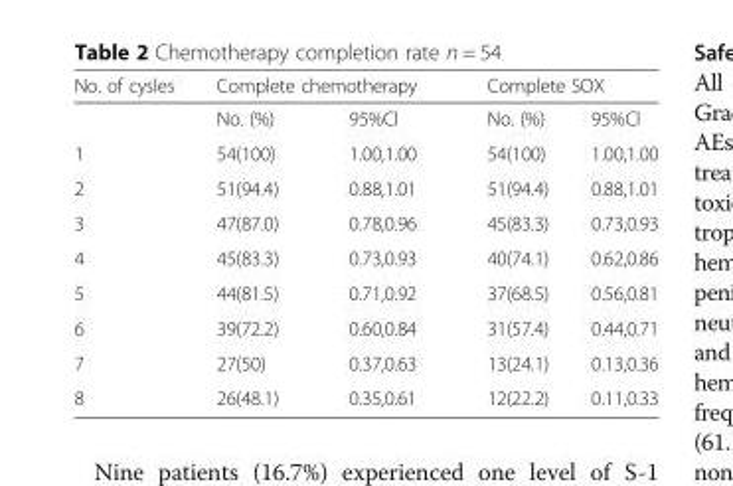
<table><thead><tr><td rowspan="2">No. of cysles</td><td colspan="2">Complete chemotherapy</td><td colspan="2">Complete SOX</td></tr><tr><td>No. (%)</td><td>95%Cl</td><td>No. (%)</td><td>95%Cl</td></tr></thead><tbody><tr><td>1</td><td>54(100)</td><td>1.00,1.00</td><td>54(100)</td><td>1.00,1.00</td></tr><tr><td>2</td><td>51(94.4)</td><td>0.88,1.01</td><td>51(94.4)</td><td>0.88,1.01</td></tr><tr><td>3</td><td>47(87.0)</td><td>0.78,0.96</td><td>45(83.3)</td><td>0.73,0.93</td></tr><tr><td>4</td><td>45(83.3)</td><td>0.73,0.93</td><td>40(74.1)</td><td>0.62,0.86</td></tr><tr><td>5</td><td>44(81.5)</td><td>0.71,0.92</td><td>37(68.5)</td><td>0.56,0.81</td></tr><tr><td>6</td><td>39(72.2)</td><td>0.60,0.84</td><td>31(57.4)</td><td>0.44,0.71</td></tr><tr><td>7</td><td>27(50)</td><td>0.37,0.63</td><td>13(24.1)</td><td>0.13,0.36</td></tr><tr><td>8</td><td>26(48.1)</td><td>0.35,0.61</td><td>12(22.2)</td><td>0.11,0.33</td></tr></tbody></table>